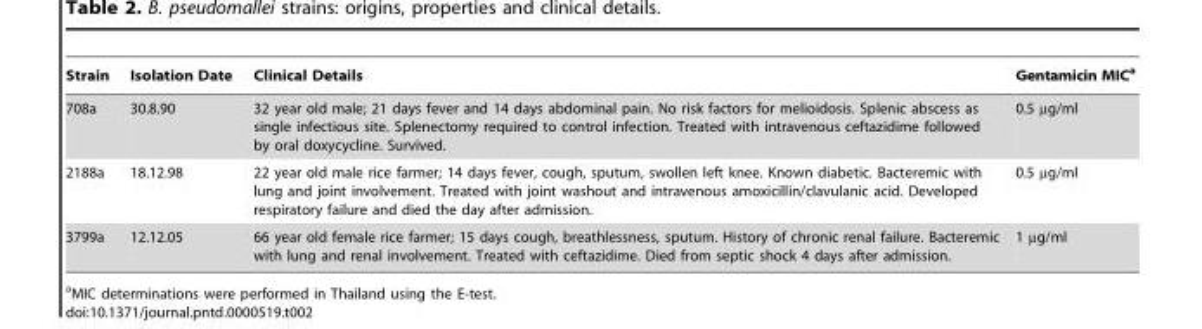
<table><thead><tr><td>Strain</td><td>Isolation Date</td><td>Clinical Details</td><td>Gentamicin MIC<sup>a</sup></td></tr></thead><tbody><tr><td>708a</td><td>30.8.90</td><td>32 year old male; 21 days fever and 14 days abdominal pain. No risk factors for melioidosis. Splenic abscess as single infectious site. Splenectomy required to control infection. Treated with intravenous ceftazidime followed by oral doxycycline. Survived.</td><td>0.5 µg/ml</td></tr><tr><td>2188a</td><td>18.12.98</td><td>22 year old male rice farmer; 14 days fever, cough, sputum, swollen left knee. Known diabetic. Bacteremic with lung and joint involvement. Treated with joint washout and intravenous amoxicillin/clavulanic acid. Developed respiratory failure and died the day after admission.</td><td>0.5 µg/ml</td></tr><tr><td>3799a</td><td>12.12.05</td><td>66 year old female rice farmer; 15 days cough, breathlessness, sputum. History of chronic renal failure. Bacteremic with lung and renal involvement. Treated with ceftazidime. Died from septic shock 4 days after admission.</td><td>1 µg/ml</td></tr></tbody></table>